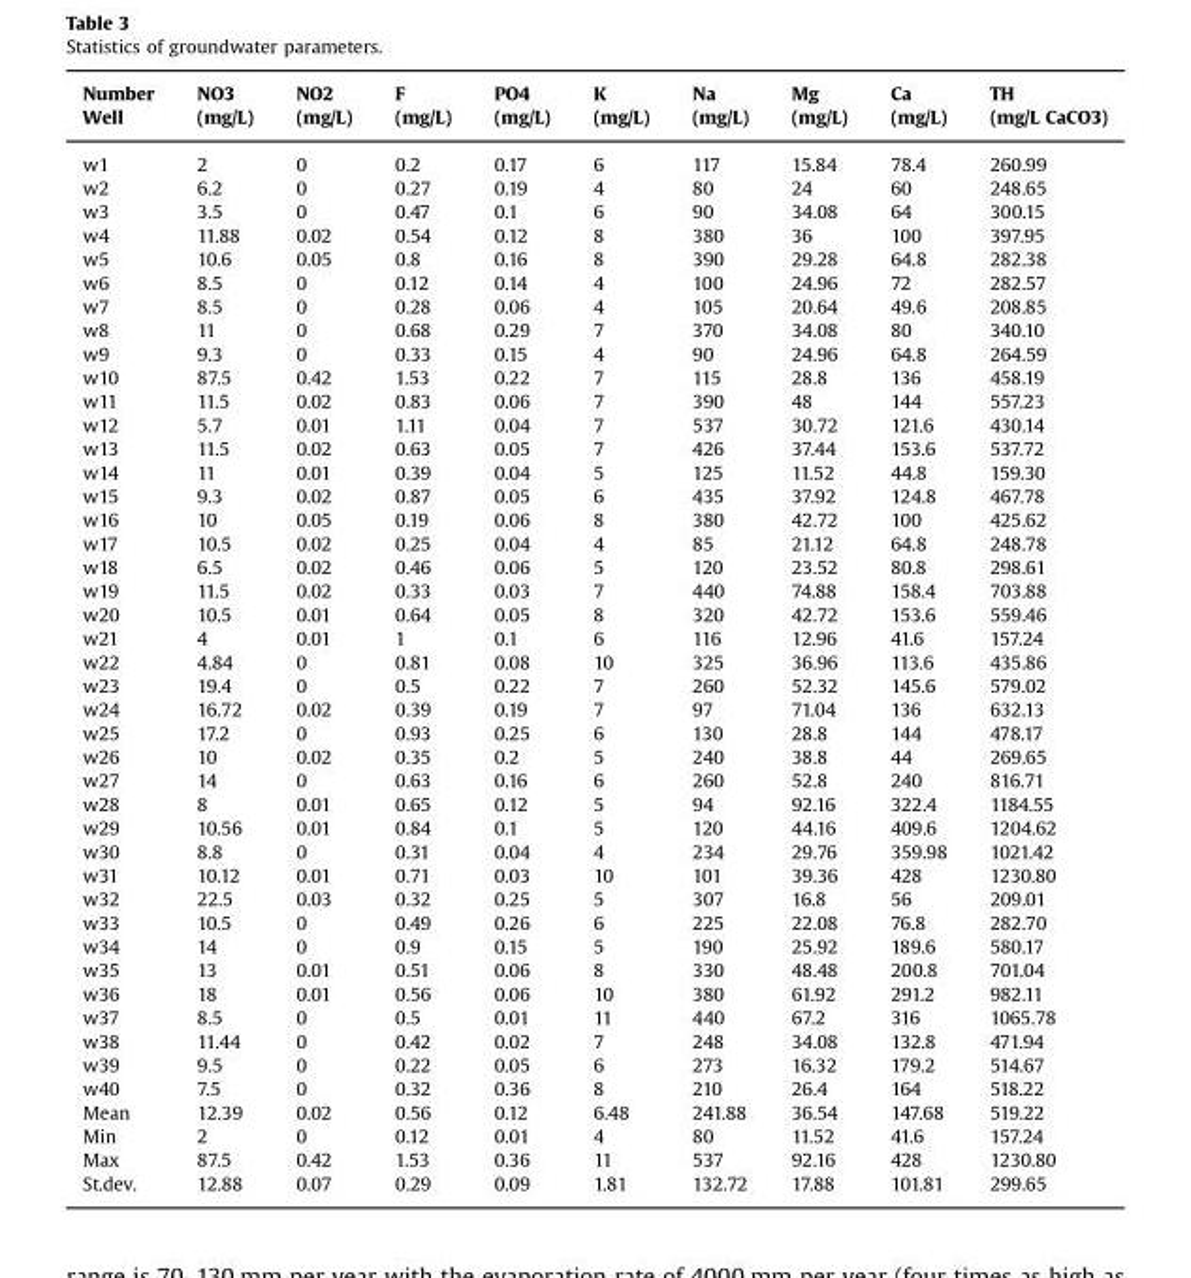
<table><thead><tr><td rowspan="2">Number Well</td><td rowspan="2">NO3 (mg/L)</td><td rowspan="2">NO2 (mg/L)</td><td rowspan="2">F (mg/L)</td><td rowspan="2">PO4 (mg/L)</td><td rowspan="2">K (mg/L)</td><td rowspan="2">Na (mg/L)</td><td rowspan="2">Mg (mg/L)</td><td rowspan="2">Ca (mg/L)</td><td rowspan="2">TH (mg/L CaCO3)</td></tr><tr></tr></thead><tbody><tr><td>w1</td><td>2</td><td>0</td><td>0.2</td><td>0.17</td><td>6</td><td>117</td><td>15.84</td><td>78.4</td><td>260.99</td></tr><tr><td>w2</td><td>6.2</td><td>0</td><td>0.27</td><td>0.19</td><td>4</td><td>80</td><td>24</td><td>60</td><td>248.65</td></tr><tr><td>w3</td><td>3.5</td><td>0</td><td>0.47</td><td>0.1</td><td>6</td><td>90</td><td>34.08</td><td>64</td><td>300.15</td></tr><tr><td>w4</td><td>11.88</td><td>0.02</td><td>0.54</td><td>0.12</td><td>8</td><td>380</td><td>36</td><td>100</td><td>397.95</td></tr><tr><td>w5</td><td>10.6</td><td>0.05</td><td>0.8</td><td>0.16</td><td>8</td><td>390</td><td>29.28</td><td>64.8</td><td>282.38</td></tr><tr><td>w6</td><td>8.5</td><td>0</td><td>0.12</td><td>0.14</td><td>4</td><td>100</td><td>24.96</td><td>72</td><td>282.57</td></tr><tr><td>w7</td><td>8.5</td><td>0</td><td>0.28</td><td>0.06</td><td>4</td><td>105</td><td>20.64</td><td>49.6</td><td>208.85</td></tr><tr><td>w8</td><td>11</td><td>0</td><td>0.68</td><td>0.29</td><td>7</td><td>370</td><td>34.08</td><td>80</td><td>340.10</td></tr><tr><td>w9</td><td>9.3</td><td>0</td><td>0.33</td><td>0.15</td><td>4</td><td>90</td><td>24.96</td><td>64.8</td><td>264.59</td></tr><tr><td>w10</td><td>87.5</td><td>0.42</td><td>1.53</td><td>0.22</td><td>7</td><td>115</td><td>28.8</td><td>136</td><td>458.19</td></tr><tr><td>w11</td><td>11.5</td><td>0.02</td><td>0.83</td><td>0.06</td><td>7</td><td>390</td><td>48</td><td>144</td><td>557.23</td></tr><tr><td>w12</td><td>5.7</td><td>0.01</td><td>1.11</td><td>0.04</td><td>7</td><td>537</td><td>30.72</td><td>121.6</td><td>430.14</td></tr><tr><td>w13</td><td>11.5</td><td>0.02</td><td>0.63</td><td>0.05</td><td>7</td><td>426</td><td>37.44</td><td>153.6</td><td>537.72</td></tr><tr><td>w14</td><td>11</td><td>0.01</td><td>0.39</td><td>0.04</td><td>5</td><td>125</td><td>11.52</td><td>44.8</td><td>159.30</td></tr><tr><td>w15</td><td>9.3</td><td>0.02</td><td>0.87</td><td>0.05</td><td>6</td><td>435</td><td>37.92</td><td>124.8</td><td>467.78</td></tr><tr><td>w16</td><td>10</td><td>0.05</td><td>0.19</td><td>0.06</td><td>8</td><td>380</td><td>42.72</td><td>100</td><td>425.62</td></tr><tr><td>w17</td><td>10.5</td><td>0.02</td><td>0.25</td><td>0.04</td><td>4</td><td>85</td><td>21.12</td><td>64.8</td><td>248.78</td></tr><tr><td>w18</td><td>6.5</td><td>0.02</td><td>0.46</td><td>0.06</td><td>5</td><td>120</td><td>23.52</td><td>80.8</td><td>298.61</td></tr><tr><td>w19</td><td>11.5</td><td>0.02</td><td>0.33</td><td>0.03</td><td>7</td><td>440</td><td>74.88</td><td>158.4</td><td>703.88</td></tr><tr><td>w20</td><td>10.5</td><td>0.01</td><td>0.64</td><td>0.05</td><td>8</td><td>320</td><td>42.72</td><td>153.6</td><td>559.46</td></tr><tr><td>w21</td><td>4</td><td>0.01</td><td>1</td><td>0.1</td><td>6</td><td>116</td><td>12.96</td><td>41.6</td><td>157.24</td></tr><tr><td>w22</td><td>4.84</td><td>0</td><td>0.81</td><td>0.08</td><td>10</td><td>325</td><td>36.96</td><td>113.6</td><td>435.86</td></tr><tr><td>w23</td><td>19.4</td><td>0</td><td>0.5</td><td>0.22</td><td>7</td><td>260</td><td>52.32</td><td>145.6</td><td>579.02</td></tr><tr><td>w24</td><td>16.72</td><td>0.02</td><td>0.39</td><td>0.19</td><td>7</td><td>97</td><td>71.04</td><td>136</td><td>632.13</td></tr><tr><td>w25</td><td>17.2</td><td>0</td><td>0.93</td><td>0.25</td><td>6</td><td>130</td><td>28.8</td><td>144</td><td>478.17</td></tr><tr><td>w26</td><td>10</td><td>0.02</td><td>0.35</td><td>0.2</td><td>5</td><td>240</td><td>38.8</td><td>44</td><td>269.65</td></tr><tr><td>w27</td><td>14</td><td>0</td><td>0.63</td><td>0.16</td><td>6</td><td>260</td><td>52.8</td><td>240</td><td>816.71</td></tr><tr><td>w28</td><td>8</td><td>0.01</td><td>0.65</td><td>0.12</td><td>5</td><td>94</td><td>92.16</td><td>322.4</td><td>1184.55</td></tr><tr><td>w29</td><td>10.56</td><td>0.01</td><td>0.84</td><td>0.1</td><td>5</td><td>120</td><td>44.16</td><td>409.6</td><td>1204.62</td></tr><tr><td>w30</td><td>8.8</td><td>0</td><td>0.31</td><td>0.04</td><td>4</td><td>234</td><td>29.76</td><td>359.98</td><td>1021.42</td></tr><tr><td>w31</td><td>10.12</td><td>0.01</td><td>0.71</td><td>0.03</td><td>10</td><td>101</td><td>39.36</td><td>428</td><td>1230.80</td></tr><tr><td>w32</td><td>22.5</td><td>0.03</td><td>0.32</td><td>0.25</td><td>5</td><td>307</td><td>16.8</td><td>56</td><td>209.01</td></tr><tr><td>w33</td><td>10.5</td><td>0</td><td>0.49</td><td>0.26</td><td>6</td><td>225</td><td>22.08</td><td>76.8</td><td>282.70</td></tr><tr><td>w34</td><td>14</td><td>0</td><td>0.9</td><td>0.15</td><td>5</td><td>190</td><td>25.92</td><td>189.6</td><td>580.17</td></tr><tr><td>w35</td><td>13</td><td>0.01</td><td>0.51</td><td>0.06</td><td>8</td><td>330</td><td>48.48</td><td>200.8</td><td>701.04</td></tr><tr><td>w36</td><td>18</td><td>0.01</td><td>0.56</td><td>0.06</td><td>10</td><td>380</td><td>61.92</td><td>291.2</td><td>982.11</td></tr><tr><td>w37</td><td>8.5</td><td>0</td><td>0.5</td><td>0.01</td><td>11</td><td>440</td><td>67.2</td><td>316</td><td>1065.78</td></tr><tr><td>w38</td><td>11.44</td><td>0</td><td>0.42</td><td>0.02</td><td>7</td><td>248</td><td>34.08</td><td>132.8</td><td>471.94</td></tr><tr><td>w39</td><td>9.5</td><td>0</td><td>0.22</td><td>0.05</td><td>6</td><td>273</td><td>16.32</td><td>179.2</td><td>514.67</td></tr><tr><td>w40</td><td>7.5</td><td>0</td><td>0.32</td><td>0.36</td><td>8</td><td>210</td><td>26.4</td><td>164</td><td>518.22</td></tr><tr><td>Mean</td><td>12.39</td><td>0.02</td><td>0.56</td><td>0.12</td><td>6.48</td><td>241.88</td><td>36.54</td><td>147.68</td><td>519.22</td></tr><tr><td>Min</td><td>2</td><td>0</td><td>0.12</td><td>0.01</td><td>4</td><td>80</td><td>11.52</td><td>41.6</td><td>157.24</td></tr><tr><td>Max</td><td>87.5</td><td>0.42</td><td>1.53</td><td>0.36</td><td>11</td><td>537</td><td>92.16</td><td>428</td><td>1230.80</td></tr><tr><td>St.dev.</td><td>12.88</td><td>0.07</td><td>0.29</td><td>0.09</td><td>1.81</td><td>132.72</td><td>17.88</td><td>101.81</td><td>299.65</td></tr></tbody></table>